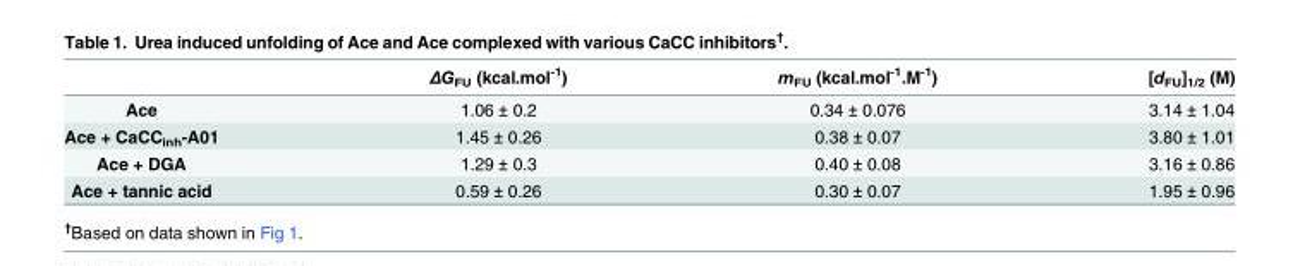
<table><thead><tr><td></td><td>ΔG<sub>FU</sub> (kcal.mol<sup>-1</sup>)</td><td>m<sub>FU</sub> (kcal.mol<sup>-1</sup>.M<sup>-1</sup>)</td><td>[d<sub>FU</sub>]<sub>1/2</sub> (M)</td></tr></thead><tbody><tr><td>Ace</td><td>1.06 ± 0.2</td><td>0.34 ± 0.076</td><td>3.14 ± 1.04</td></tr><tr><td>Ace + CaCC<sub>inh</sub>-A01</td><td>1.45 ± 0.26</td><td>0.38 ± 0.07</td><td>3.80 ± 1.01</td></tr><tr><td>Ace + DGA</td><td>1.29 ± 0.3</td><td>0.40 ± 0.08</td><td>3.16 ± 0.86</td></tr><tr><td>Ace + tannic acid</td><td>0.59 ± 0.26</td><td>0.30 ± 0.07</td><td>1.95 ± 0.96</td></tr></tbody></table>